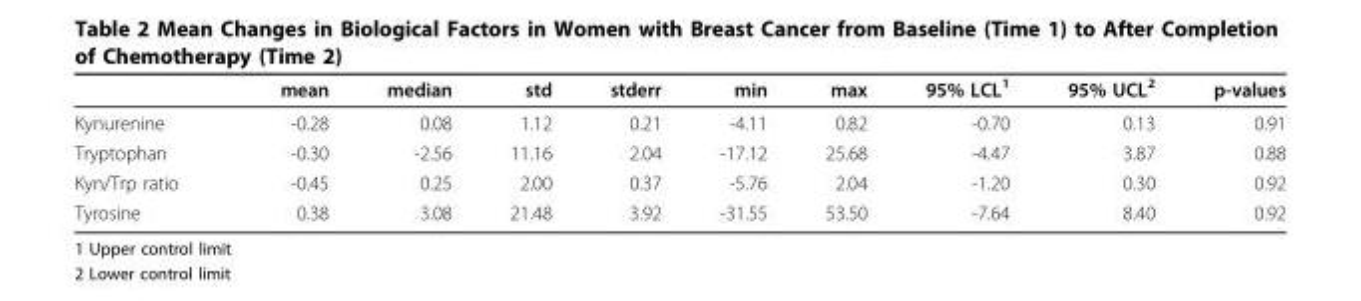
<table><thead><tr><td></td><td>mean</td><td>median</td><td>std</td><td>stderr</td><td>min</td><td>max</td><td>95% LCL<sup>1</sup></td><td>95% UCL<sup>2</sup></td><td>p-values</td></tr></thead><tbody><tr><td>Kynurenine</td><td>-0.28</td><td>0.08</td><td>1.12</td><td>0.21</td><td>-4.11</td><td>0.82</td><td>-0.70</td><td>0.13</td><td>0.91</td></tr><tr><td>Tryptophan</td><td>-0.30</td><td>-2.56</td><td>11.16</td><td>2.04</td><td>-17.12</td><td>25.68</td><td>-4.47</td><td>3.87</td><td>0.88</td></tr><tr><td>Kyn/Trp ratio</td><td>-0.45</td><td>0.25</td><td>2.00</td><td>0.37</td><td>-5.76</td><td>2.04</td><td>-1.20</td><td>0.30</td><td>0.92</td></tr><tr><td>Tyrosine</td><td>0.38</td><td>3.08</td><td>21.48</td><td>3.92</td><td>-31.55</td><td>53.50</td><td>-7.64</td><td>8.40</td><td>0.92</td></tr></tbody></table>